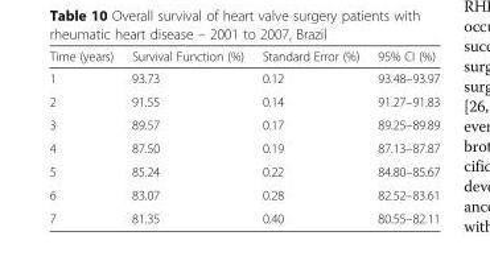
<table><thead><tr><td>Time (years)</td><td>Survival Function (%)</td><td>Standard Error (%)</td><td>95% CI (%)</td></tr></thead><tbody><tr><td>1</td><td>93.73</td><td>0.12</td><td>93.48–93.97</td></tr><tr><td>2</td><td>91.55</td><td>0.14</td><td>91.27–91.83</td></tr><tr><td>3</td><td>89.57</td><td>0.17</td><td>89.25–89.89</td></tr><tr><td>4</td><td>87.50</td><td>0.19</td><td>87.13–87.87</td></tr><tr><td>5</td><td>85.24</td><td>0.22</td><td>84.80–85.67</td></tr><tr><td>6</td><td>83.07</td><td>0.28</td><td>82.52–83.61</td></tr><tr><td>7</td><td>81.35</td><td>0.40</td><td>80.55–82.11</td></tr></tbody></table>